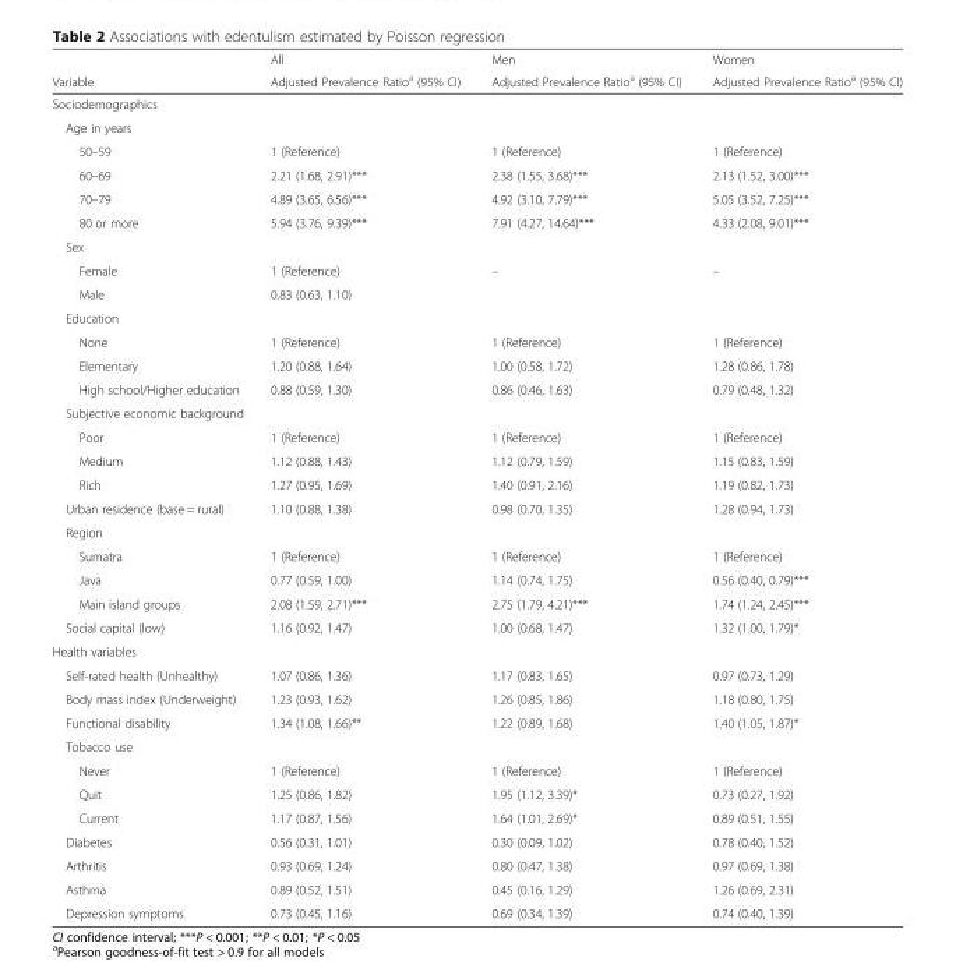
<table><thead><tr><td rowspan="2">Variable</td><td rowspan="2">All Adjusted Prevalence Ratio<sup>a</sup> (95% CI)</td><td rowspan="2">Men Adjusted Prevalence Ratio<sup>a</sup> (95% CI)</td><td rowspan="2">Women Adjusted Prevalence Ratio<sup>a</sup> (95% CI)</td></tr><tr></tr></thead><tbody><tr><td colspan="4">Sociodemographics</td></tr><tr><td colspan="4">Age in years</td></tr><tr><td>50–59</td><td>1 (Reference)</td><td>1 (Reference)</td><td>1 (Reference)</td></tr><tr><td>60–69</td><td>2.21 (1.68, 2.91)***</td><td>2.38 (1.55, 3.68)***</td><td>2.13 (1.52, 3.00)***</td></tr><tr><td>70–79</td><td>4.89 (3.65, 6.56)***</td><td>4.92 (3.10, 7.79)***</td><td>5.05 (3.52, 7.25)***</td></tr><tr><td>80 or more</td><td>5.94 (3.76, 9.39)***</td><td>7.91 (4.27, 14.64)***</td><td>4.33 (2.08, 9.01)***</td></tr><tr><td colspan="4">Sex</td></tr><tr><td>Female</td><td>1 (Reference)</td><td>–</td><td>–</td></tr><tr><td>Male</td><td>0.83 (0.63, 1.10)</td><td></td><td></td></tr><tr><td colspan="4">Education</td></tr><tr><td>None</td><td>1 (Reference)</td><td>1 (Reference)</td><td>1 (Reference)</td></tr><tr><td>Elementary</td><td>1.20 (0.88, 1.64)</td><td>1.00 (0.58, 1.72)</td><td>1.28 (0.86, 1.78)</td></tr><tr><td>High school/Higher education</td><td>0.88 (0.59, 1.30)</td><td>0.86 (0.46, 1.63)</td><td>0.79 (0.48, 1.32)</td></tr><tr><td colspan="4">Subjective economic background</td></tr><tr><td>Poor</td><td>1 (Reference)</td><td>1 (Reference)</td><td>1 (Reference)</td></tr><tr><td>Medium</td><td>1.12 (0.88, 1.43)</td><td>1.12 (0.79, 1.59)</td><td>1.15 (0.83, 1.59)</td></tr><tr><td>Rich</td><td>1.27 (0.95, 1.69)</td><td>1.40 (0.91, 2.16)</td><td>1.19 (0.82, 1.73)</td></tr><tr><td>Urban residence (base = rural)</td><td>1.10 (0.88, 1.38)</td><td>0.98 (0.70, 1.35)</td><td>1.28 (0.94, 1.73)</td></tr><tr><td colspan="4">Region</td></tr><tr><td>Sumatra</td><td>1 (Reference)</td><td>1 (Reference)</td><td>1 (Reference)</td></tr><tr><td>Java</td><td>0.77 (0.59, 1.00)</td><td>1.14 (0.74, 1.75)</td><td>0.56 (0.40, 0.79)***</td></tr><tr><td>Main island groups</td><td>2.08 (1.59, 2.71)***</td><td>2.75 (1.79, 4.21)***</td><td>1.74 (1.24, 2.45)***</td></tr><tr><td>Social capital (low)</td><td>1.16 (0.92, 1.47)</td><td>1.00 (0.68, 1.47)</td><td>1.32 (1.00, 1.79)*</td></tr><tr><td colspan="4">Health variables</td></tr><tr><td>Self-rated health (Unhealthy)</td><td>1.07 (0.86, 1.36)</td><td>1.17 (0.83, 1.65)</td><td>0.97 (0.73, 1.29)</td></tr><tr><td>Body mass index (Underweight)</td><td>1.23 (0.93, 1.62)</td><td>1.26 (0.85, 1.86)</td><td>1.18 (0.80, 1.75)</td></tr><tr><td>Functional disability</td><td>1.34 (1.08, 1.66)**</td><td>1.22 (0.89, 1.68)</td><td>1.40 (1.05, 1.87)*</td></tr><tr><td colspan="4">Tobacco use</td></tr><tr><td>Never</td><td>1 (Reference)</td><td>1 (Reference)</td><td>1 (Reference)</td></tr><tr><td>Quit</td><td>1.25 (0.86, 1.82)</td><td>1.95 (1.12, 3.39)*</td><td>0.73 (0.27, 1.92)</td></tr><tr><td>Current</td><td>1.17 (0.87, 1.56)</td><td>1.64 (1.01, 2.69)*</td><td>0.89 (0.51, 1.55)</td></tr><tr><td>Diabetes</td><td>0.56 (0.31, 1.01)</td><td>0.30 (0.09, 1.02)</td><td>0.78 (0.40, 1.52)</td></tr><tr><td>Arthritis</td><td>0.93 (0.69, 1.24)</td><td>0.80 (0.47, 1.38)</td><td>0.97 (0.69, 1.38)</td></tr><tr><td>Asthma</td><td>0.89 (0.52, 1.51)</td><td>0.45 (0.16, 1.29)</td><td>1.26 (0.69, 2.31)</td></tr><tr><td>Depression symptoms</td><td>0.73 (0.45, 1.16)</td><td>0.69 (0.34, 1.39)</td><td>0.74 (0.40, 1.39)</td></tr></tbody></table>